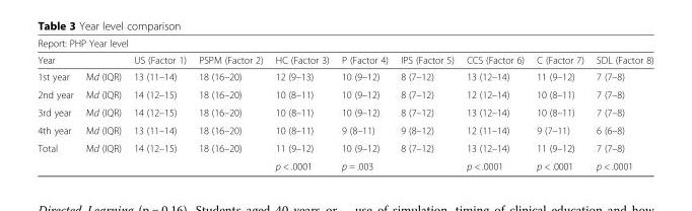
<table><thead><tr><td colspan="10">Report: PHP Year level</td></tr><tr><td colspan="2">Year</td><td rowspan="2">US (Factor 1) 13 (11–14)</td><td rowspan="2">PSPM (Factor 2) 18 (16–20)</td><td rowspan="2">HC (Factor 3) 12 (9–13)</td><td rowspan="2">P (Factor 4) 10 (9–12)</td><td rowspan="2">IPS (Factor 5) 8 (7–12)</td><td rowspan="2">CCS (Factor 6) 13 (12–14)</td><td rowspan="2">C (Factor 7) 11 (9–12)</td><td rowspan="2">SDL (Factor 8) 7 (7–8)</td></tr><tr><td>1st year</td><td>Md (IQR)</td></tr></thead><tbody><tr><td>2nd year</td><td>Md (IQR)</td><td>14 (12–15)</td><td>18 (16–20)</td><td>10 (8–11)</td><td>10 (9–12)</td><td>8 (7–12)</td><td>12 (12–14)</td><td>10 (8–11)</td><td>7 (7–8)</td></tr><tr><td>3rd year</td><td>Md (IQR)</td><td>14 (12–15)</td><td>18 (16–20)</td><td>10 (8–11)</td><td>10 (9–12)</td><td>8 (7–12)</td><td>13 (12–14)</td><td>10 (8–11)</td><td>7 (7–8)</td></tr><tr><td>4th year</td><td>Md (IQR)</td><td>13 (11–14)</td><td>18 (16–20)</td><td>10 (8–11)</td><td>9 (8–11)</td><td>9 (8–12)</td><td>12 (11–14)</td><td>9 (7–11)</td><td>6 (6–8)</td></tr><tr><td rowspan="2">Total</td><td>Md (IQR)</td><td>14 (12–15)</td><td>18 (16–20)</td><td>11 (9–12)</td><td>10 (9–12)</td><td>8 (7–12)</td><td>13 (12–14)</td><td>11 (9–12)</td><td>7 (7–8)</td></tr><tr><td></td><td></td><td></td><td>p &lt; .0001</td><td>p = .003</td><td></td><td>p &lt; .0001</td><td>p &lt; .0001</td><td>p &lt; .0001</td></tr></tbody></table>